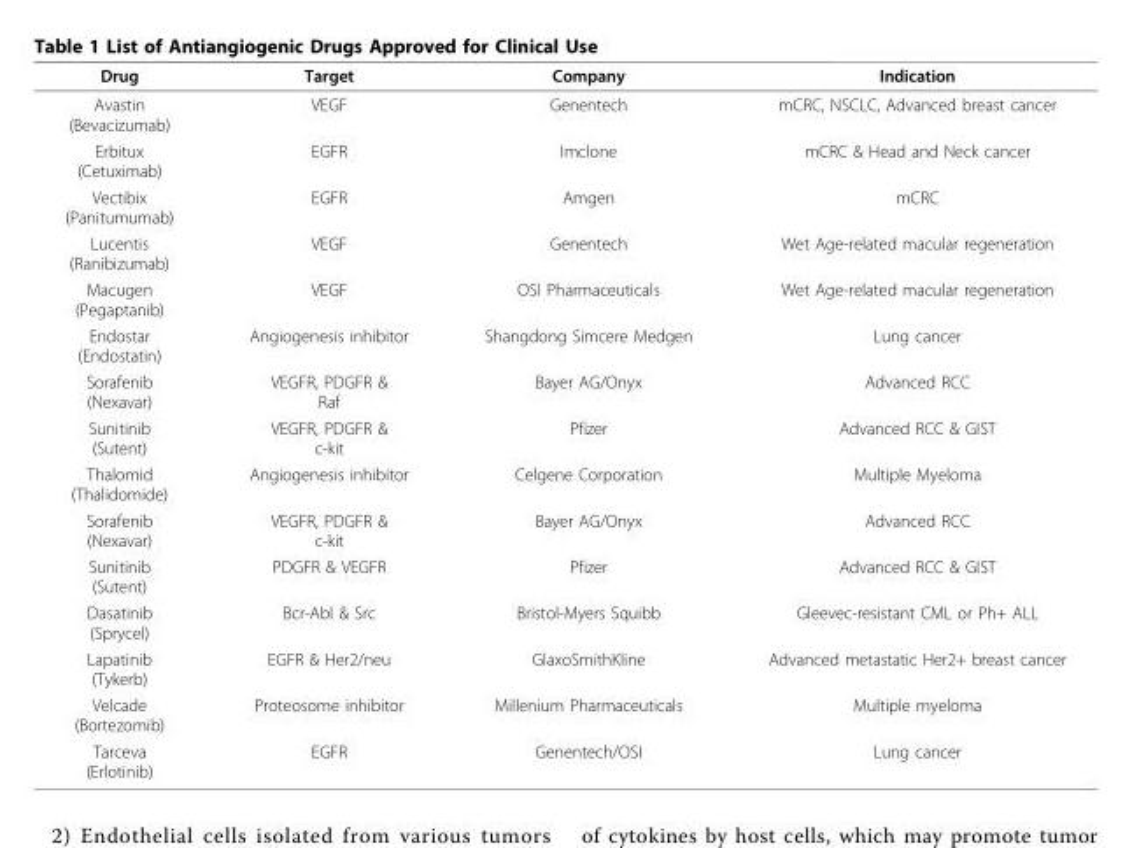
<table><thead><tr><td>Drug</td><td>Target</td><td>Company</td><td>Indication</td></tr></thead><tbody><tr><td>Avastin (Bevacizumab)</td><td>VEGF</td><td>Genentech</td><td>mCRC, NSCLC, Advanced breast cancer</td></tr><tr><td>Erbitux (Cetuximab)</td><td>EGFR</td><td>Imclone</td><td>mCRC &amp; Head and Neck cancer</td></tr><tr><td>Vectibix (Panitumumab)</td><td>EGFR</td><td>Amgen</td><td>mCRC</td></tr><tr><td>Lucentis (Ranibizumab)</td><td>VEGF</td><td>Genentech</td><td>Wet Age-related macular regeneration</td></tr><tr><td>Macugen (Pegaptanib)</td><td>VEGF</td><td>OSI Pharmaceuticals</td><td>Wet Age-related macular regeneration</td></tr><tr><td>Endostar (Endostatin)</td><td>Angiogenesis inhibitor</td><td>Shangdong Simcere Medgen</td><td>Lung cancer</td></tr><tr><td>Sorafenib (Nexavar)</td><td>VEGFR, PDGFR &amp; Raf</td><td>Bayer AG/Onyx</td><td>Advanced RCC</td></tr><tr><td>Sunitinib (Sutent)</td><td>VEGFR, PDGFR &amp; c-kit</td><td>Pfizer</td><td>Advanced RCC &amp; GIST</td></tr><tr><td>Thalomid (Thalidomide)</td><td>Angiogenesis inhibitor</td><td>Celgene Corporation</td><td>Multiple Myeloma</td></tr><tr><td>Sorafenib (Nexavar)</td><td>VEGFR, PDGFR &amp; c-kit</td><td>Bayer AG/Onyx</td><td>Advanced RCC</td></tr><tr><td>Sunitinib (Sutent)</td><td>PDGFR &amp; VEGFR</td><td>Pfizer</td><td>Advanced RCC &amp; GIST</td></tr><tr><td>Dasatinib (Sprycel)</td><td>Bcr-Abl &amp; Src</td><td>Bristol-Myers Squibb</td><td>Gleevec-resistant CML or Ph+ ALL</td></tr><tr><td>Lapatinib (Tykerb)</td><td>EGFR &amp; Her2/neu</td><td>GlaxoSmithKline</td><td>Advanced metastatic Her2+ breast cancer</td></tr><tr><td>Velcade (Bortezomib)</td><td>Proteosome inhibitor</td><td>Millenium Pharmaceuticals</td><td>Multiple myeloma</td></tr><tr><td>Tarceva (Erlotinib)</td><td>EGFR</td><td>Genentech/OSI</td><td>Lung cancer</td></tr></tbody></table>